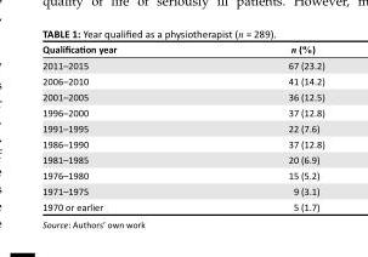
<table><thead><tr><td>Qualification year</td><td>n (%)</td></tr></thead><tbody><tr><td>2011–2015</td><td>67 (23.2)</td></tr><tr><td>2006–2010</td><td>41 (14.2)</td></tr><tr><td>2001–2005</td><td>36 (12.5)</td></tr><tr><td>1996–2000</td><td>37 (12.8)</td></tr><tr><td>1991–1995</td><td>22 (7.6)</td></tr><tr><td>1986–1990</td><td>37 (12.8)</td></tr><tr><td>1981–1985</td><td>20 (6.9)</td></tr><tr><td>1976–1980</td><td>15 (5.2)</td></tr><tr><td>1971–1975</td><td>9 (3.1)</td></tr><tr><td>1970 or earlier</td><td>5 (1.7)</td></tr></tbody></table>